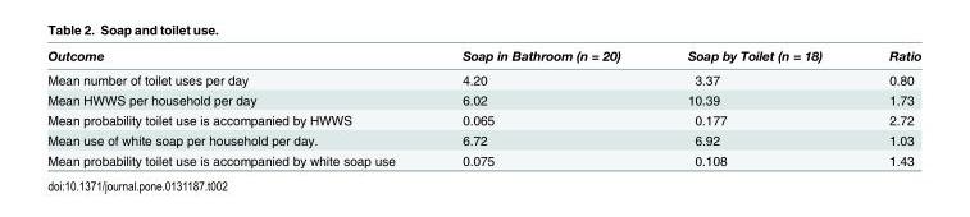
<table><thead><tr><td>Outcome</td><td>Soap in Bathroom (n = 20)</td><td>Soap by Toilet (n = 18)</td><td>Ratio</td></tr></thead><tbody><tr><td>Mean number of toilet uses per day</td><td>4.20</td><td>3.37</td><td>0.80</td></tr><tr><td>Mean HWWS per household per day</td><td>6.02</td><td>10.39</td><td>1.73</td></tr><tr><td>Mean probability toilet use is accompanied by HWWS</td><td>0.065</td><td>0.177</td><td>2.72</td></tr><tr><td>Mean use of white soap per household per day.</td><td>6.72</td><td>6.92</td><td>1.03</td></tr><tr><td>Mean probability toilet use is accompanied by white soap use</td><td>0.075</td><td>0.108</td><td>1.43</td></tr></tbody></table>